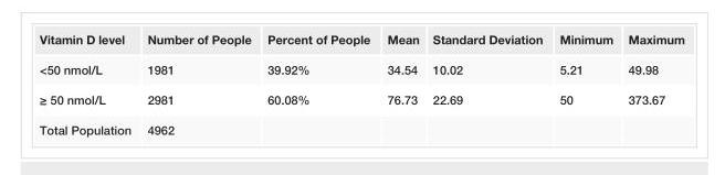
<table><tbody><tr><td>Vitamin D level</td><td>Number of People</td><td>Percent of People</td><td>Mean</td><td>Standard Deviation</td><td>Minimum</td><td>Maximum</td></tr><tr><td>&lt;50 nmol/L</td><td>1981</td><td>39.92%</td><td>34.54</td><td>10.02</td><td>5.21</td><td>49.98</td></tr><tr><td>≥ 50 nmol/L</td><td>2981</td><td>60.08%</td><td>76.73</td><td>22.69</td><td>50</td><td>373.67</td></tr><tr><td>Total Population</td><td>4962</td><td></td><td></td><td></td><td></td><td></td></tr></tbody></table>